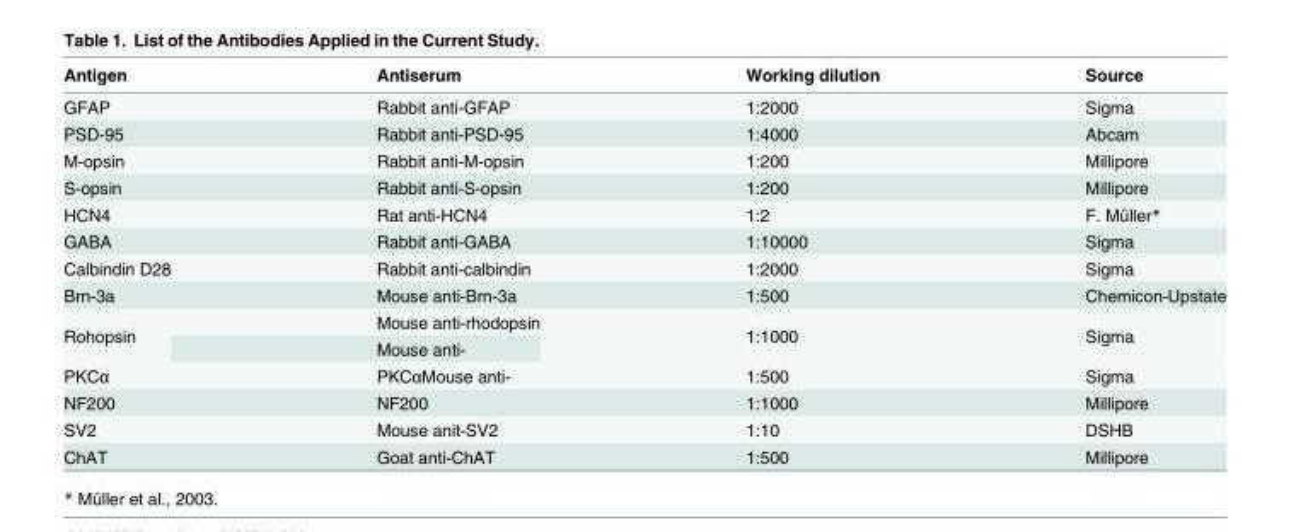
<table><thead><tr><td>Antigen</td><td>Antiserum</td><td>Working dilution</td><td>Source</td></tr></thead><tbody><tr><td>GFAP</td><td>Rabbit anti-GFAP</td><td>1:2000</td><td>Sigma</td></tr><tr><td>PSD-95</td><td>Rabbit anti-PSD-95</td><td>1:4000</td><td>Abcam</td></tr><tr><td>M-opsin</td><td>Rabbit anti-M-opsin</td><td>1:200</td><td>Millipore</td></tr><tr><td>S-opsin</td><td>Rabbit anti-S-opsin</td><td>1:200</td><td>Millipore</td></tr><tr><td>HCN4</td><td>Rat anti-HCN4</td><td>1:2</td><td>F. Müller*</td></tr><tr><td>GABA</td><td>Rabbit anti-GABA</td><td>1:10000</td><td>Sigma</td></tr><tr><td>Calbindin D28</td><td>Rabbit anti-calbindin</td><td>1:2000</td><td>Sigma</td></tr><tr><td>Brn-3a</td><td>Mouse anti-Brn-3a</td><td>1:500</td><td>Chemicon-Upstate</td></tr><tr><td rowspan="2">Rohopsin</td><td>Mouse anti-rhodopsin</td><td rowspan="2">1:1000</td><td rowspan="2">Sigma</td></tr><tr><td>Mouse anti-</td></tr><tr><td>PKCα</td><td>PKCαMouse anti-</td><td>1:500</td><td>Sigma</td></tr><tr><td>NF200</td><td>NF200</td><td>1:1000</td><td>Millipore</td></tr><tr><td>SV2</td><td>Mouse anit-SV2</td><td>1:10</td><td>DSHB</td></tr><tr><td>ChAT</td><td>Goat anti-ChAT</td><td>1:500</td><td>Millipore</td></tr></tbody></table>